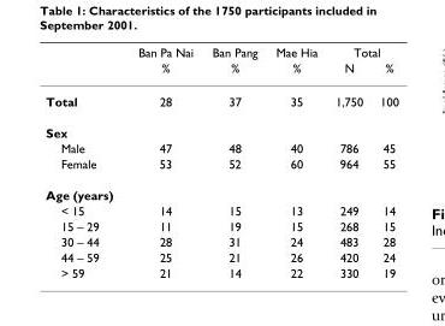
<table><thead><tr><td rowspan="2"></td><td rowspan="2">Ban Pa Nai %</td><td rowspan="2">Ban Pang %</td><td rowspan="2">Mae Hia %</td><td colspan="2">Total</td></tr><tr><td>N</td><td>%</td></tr></thead><tbody><tr><td>Total</td><td>28</td><td>37</td><td>35</td><td>1,750</td><td>100</td></tr><tr><td colspan="6">Sex</td></tr><tr><td>Male</td><td>47</td><td>48</td><td>40</td><td>786</td><td>45</td></tr><tr><td>Female</td><td>53</td><td>52</td><td>60</td><td>964</td><td>55</td></tr><tr><td colspan="6">Age (years)</td></tr><tr><td>&lt; 15</td><td>14</td><td>15</td><td>13</td><td>249</td><td>14</td></tr><tr><td>15 – 29</td><td>11</td><td>19</td><td>15</td><td>268</td><td>15</td></tr><tr><td>30 – 44</td><td>28</td><td>31</td><td>24</td><td>483</td><td>28</td></tr><tr><td>44 – 59</td><td>25</td><td>21</td><td>26</td><td>420</td><td>24</td></tr><tr><td>&gt; 59</td><td>21</td><td>14</td><td>22</td><td>330</td><td>19</td></tr></tbody></table>